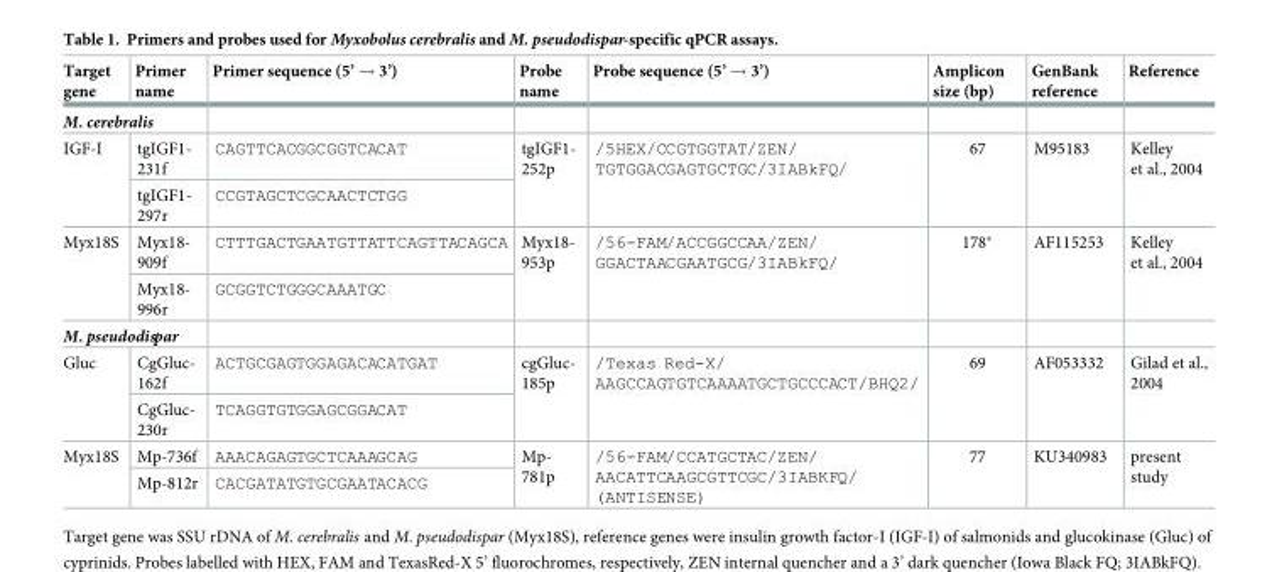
<table><thead><tr><td>Target gene</td><td>Primer name</td><td>Primer sequence (5’ → 3’)</td><td>Probe name</td><td>Probe sequence (5’ → 3’)</td><td>Amplicon size (bp)</td><td>GenBank reference</td><td>Reference</td></tr></thead><tbody><tr><td colspan="8">M. cerebralis</td></tr><tr><td rowspan="2">IGF-I</td><td>tgIGF1- 231f</td><td>CAGTTCACGGCGGTCACAT</td><td rowspan="2">tgIGF1- 252p</td><td rowspan="2">/5HEX/CCGTGGTAT/ZEN/ TGTGGACGAGTGCTGC/3IABkFQ/</td><td rowspan="2">67</td><td rowspan="2">M95183</td><td rowspan="2">Kelley et al., 2004</td></tr><tr><td>tgIGF1- 297r</td><td>CCGTAGCTCGCAACTCTGG</td></tr><tr><td rowspan="2">Myx18S</td><td>Myx18- 909f</td><td>CTTTGACTGAATGTTATTCAGTTACAGCA</td><td rowspan="2">Myx18- 953p</td><td rowspan="2">/56-FAM/ACCGGCCAA/ZEN/ GGACTAACGAATGCG/3IABkFQ/</td><td rowspan="2">178*</td><td rowspan="2">AF115253</td><td rowspan="2">Kelley et al., 2004</td></tr><tr><td>Myx18- 996r</td><td>GCGGTCTGGGCAAATGC</td></tr><tr><td colspan="8">M. pseudodispar</td></tr><tr><td rowspan="2">Gluc</td><td>CgGluc- 162f</td><td>ACTGCGAGTGGAGACACATGAT</td><td rowspan="2">cgGluc- 185p</td><td rowspan="2">/Texas Red-X/ AAGCCAGTGTCAAAATGCTGCCCACT/BHQ2/</td><td rowspan="2">69</td><td rowspan="2">AF053332</td><td rowspan="2">Gilad et al., 2004</td></tr><tr><td>CgGluc- 230r</td><td>TCAGGTGTGGAGCGGACAT</td></tr><tr><td rowspan="2">Myx18S</td><td>Mp-736f</td><td>AAACAGAGTGCTCAAAGCAG</td><td rowspan="2">Mp- 781p</td><td rowspan="2">/56-FAM/CCATGCTAC/ZEN/ AACATTCAAGCGTTCGC/3IABKFQ/ (ANTISENSE)</td><td rowspan="2">77</td><td rowspan="2">KU340983</td><td rowspan="2">present study</td></tr><tr><td>Mp-812r</td><td>CACGATATGTGCGAATACACG</td></tr></tbody></table>